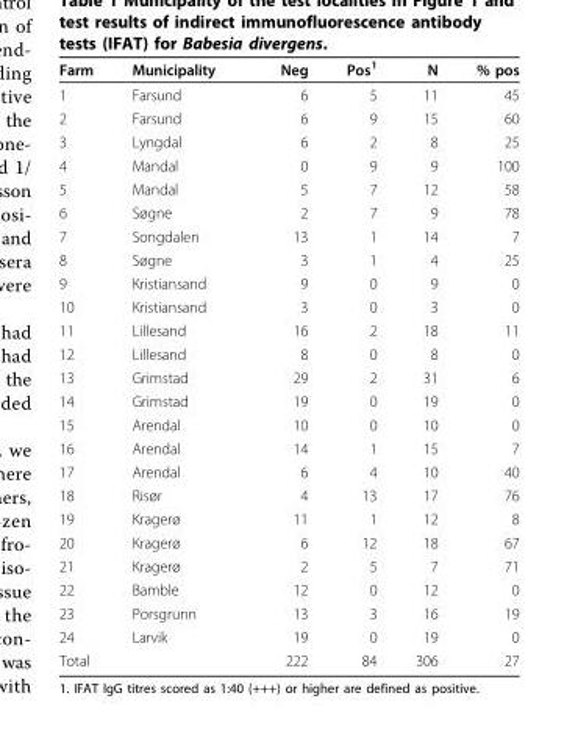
<table><thead><tr><td>Farm</td><td>Municipality</td><td>Neg</td><td>Pos<sup>1</sup></td><td>N</td><td>% pos</td></tr></thead><tbody><tr><td>1</td><td>Farsund</td><td>6</td><td>5</td><td>11</td><td>45</td></tr><tr><td>2</td><td>Farsund</td><td>6</td><td>9</td><td>15</td><td>60</td></tr><tr><td>3</td><td>Lyngdal</td><td>6</td><td>2</td><td>8</td><td>25</td></tr><tr><td>4</td><td>Mandal</td><td>0</td><td>9</td><td>9</td><td>100</td></tr><tr><td>5</td><td>Mandal</td><td>5</td><td>7</td><td>12</td><td>58</td></tr><tr><td>6</td><td>Søgne</td><td>2</td><td>7</td><td>9</td><td>78</td></tr><tr><td>7</td><td>Songdalen</td><td>13</td><td>1</td><td>14</td><td>7</td></tr><tr><td>8</td><td>Søgne</td><td>3</td><td>1</td><td>4</td><td>25</td></tr><tr><td>9</td><td>Kristiansand</td><td>9</td><td>0</td><td>9</td><td>0</td></tr><tr><td>10</td><td>Kristiansand</td><td>3</td><td>0</td><td>3</td><td>0</td></tr><tr><td>11</td><td>Lillesand</td><td>16</td><td>2</td><td>18</td><td>11</td></tr><tr><td>12</td><td>Lillesand</td><td>8</td><td>0</td><td>8</td><td>0</td></tr><tr><td>13</td><td>Grimstad</td><td>29</td><td>2</td><td>31</td><td>6</td></tr><tr><td>14</td><td>Grimstad</td><td>19</td><td>0</td><td>19</td><td>0</td></tr><tr><td>15</td><td>Arendal</td><td>10</td><td>0</td><td>10</td><td>0</td></tr><tr><td>16</td><td>Arendal</td><td>14</td><td>1</td><td>15</td><td>7</td></tr><tr><td>17</td><td>Arendal</td><td>6</td><td>4</td><td>10</td><td>40</td></tr><tr><td>18</td><td>Risør</td><td>4</td><td>13</td><td>17</td><td>76</td></tr><tr><td>19</td><td>Kragerø</td><td>11</td><td>1</td><td>12</td><td>8</td></tr><tr><td>20</td><td>Kragerø</td><td>6</td><td>12</td><td>18</td><td>67</td></tr><tr><td>21</td><td>Kragerø</td><td>2</td><td>5</td><td>7</td><td>71</td></tr><tr><td>22</td><td>Bamble</td><td>12</td><td>0</td><td>12</td><td>0</td></tr><tr><td>23</td><td>Porsgrunn</td><td>13</td><td>3</td><td>16</td><td>19</td></tr><tr><td>24</td><td>Larvik</td><td>19</td><td>0</td><td>19</td><td>0</td></tr><tr><td>Total</td><td></td><td>222</td><td>84</td><td>306</td><td>27</td></tr></tbody></table>